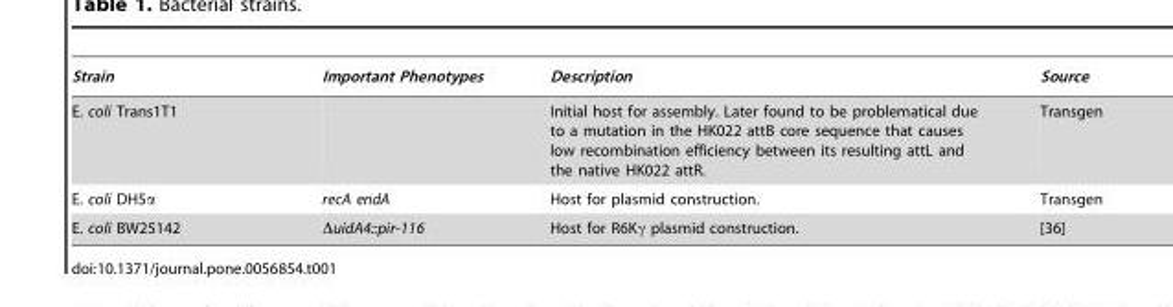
<table><thead><tr><td>Strain</td><td>Important Phenotypes</td><td>Description</td><td>Source</td></tr></thead><tbody><tr><td>E. coli Trans1T1</td><td></td><td>Initial host for assembly. Later found to be problematical due to a mutation in the HK022 attB core sequence that causes low recombination efficiency between its resulting attL and the native HK022 attR.</td><td>Transgen</td></tr><tr><td>E. coli DH5α</td><td>recA endA</td><td>Host for plasmid construction.</td><td>Transgen</td></tr><tr><td>E. coli BW25142</td><td>ΔuidA4::pir-116</td><td>Host for R6Kγ plasmid construction.</td><td>[36]</td></tr></tbody></table>